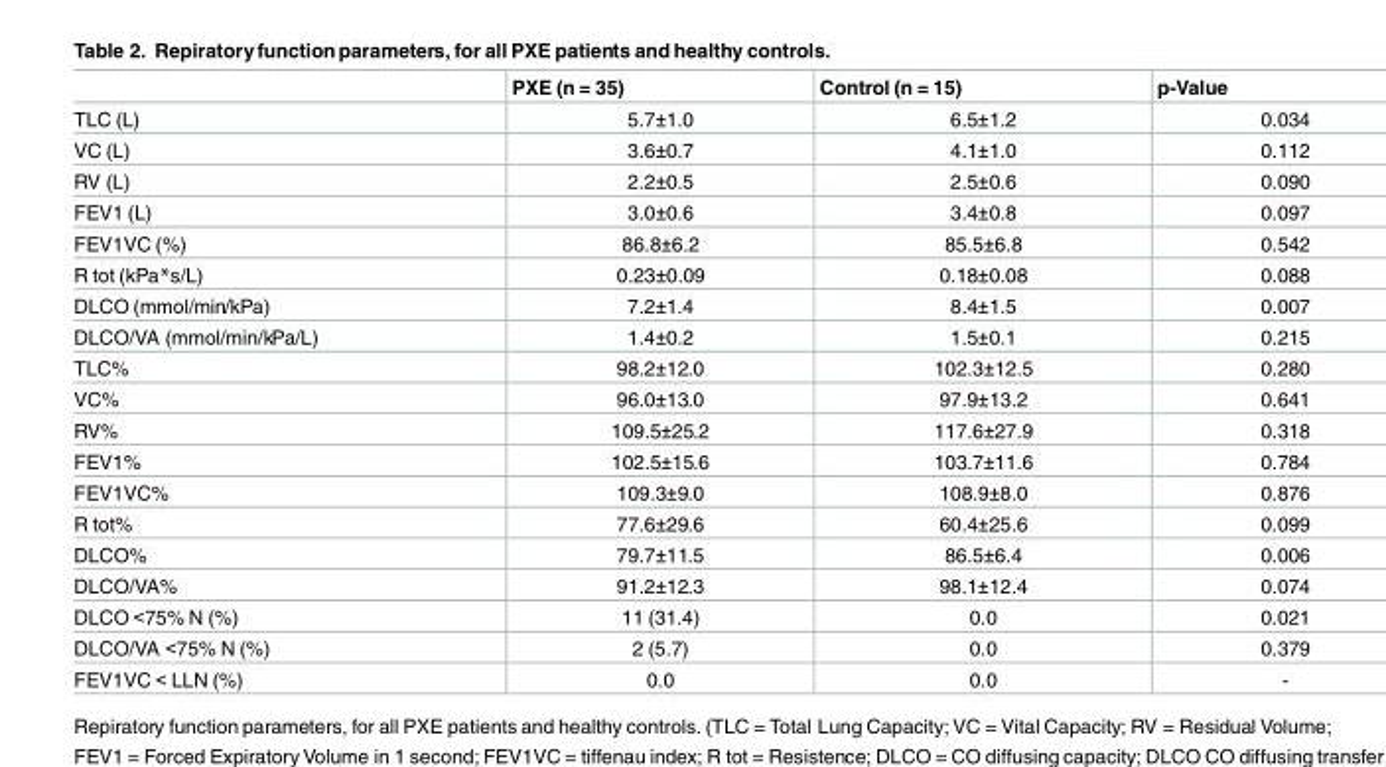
<table><thead><tr><td></td><td>PXE (n = 35)</td><td>Control (n = 15)</td><td>p-Value</td></tr></thead><tbody><tr><td>TLC (L)</td><td>5.7±1.0</td><td>6.5±1.2</td><td>0.034</td></tr><tr><td>VC (L)</td><td>3.6±0.7</td><td>4.1±1.0</td><td>0.112</td></tr><tr><td>RV (L)</td><td>2.2±0.5</td><td>2.5±0.6</td><td>0.090</td></tr><tr><td>FEV1 (L)</td><td>3.0±0.6</td><td>3.4±0.8</td><td>0.097</td></tr><tr><td>FEV1VC (%)</td><td>86.8±6.2</td><td>85.5±6.8</td><td>0.542</td></tr><tr><td>R tot (kPa*s/L)</td><td>0.23±0.09</td><td>0.18±0.08</td><td>0.088</td></tr><tr><td>DLCO (mmol/min/kPa)</td><td>7.2±1.4</td><td>8.4±1.5</td><td>0.007</td></tr><tr><td>DLCO/VA (mmol/min/kPa/L)</td><td>1.4±0.2</td><td>1.5±0.1</td><td>0.215</td></tr><tr><td>TLC%</td><td>98.2±12.0</td><td>102.3±12.5</td><td>0.280</td></tr><tr><td>VC%</td><td>96.0±13.0</td><td>97.9±13.2</td><td>0.641</td></tr><tr><td>RV%</td><td>109.5±25.2</td><td>117.6±27.9</td><td>0.318</td></tr><tr><td>FEV1%</td><td>102.5±15.6</td><td>103.7±11.6</td><td>0.784</td></tr><tr><td>FEV1VC%</td><td>109.3±9.0</td><td>108.9±8.0</td><td>0.876</td></tr><tr><td>R tot%</td><td>77.6±29.6</td><td>60.4±25.6</td><td>0.099</td></tr><tr><td>DLCO%</td><td>79.7±11.5</td><td>86.5±6.4</td><td>0.006</td></tr><tr><td>DLCO/VA%</td><td>91.2±12.3</td><td>98.1±12.4</td><td>0.074</td></tr><tr><td>DLCO &lt;75% N (%)</td><td>11 (31.4)</td><td>0.0</td><td>0.021</td></tr><tr><td>DLCO/VA &lt;75% N (%)</td><td>2 (5.7)</td><td>0.0</td><td>0.379</td></tr><tr><td>FEV1VC &lt; LLN (%)</td><td>0.0</td><td>0.0</td><td>-</td></tr></tbody></table>